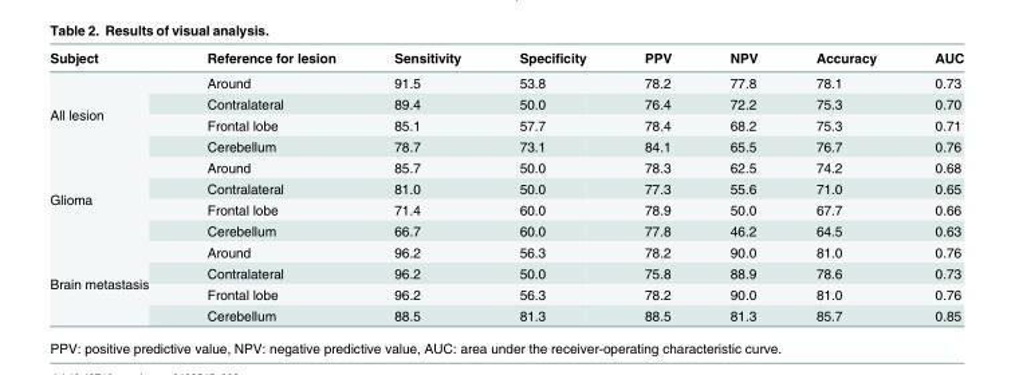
<table><thead><tr><td>Subject</td><td>Reference for lesion</td><td>Sensitivity</td><td>Specificity</td><td>PPV</td><td>NPV</td><td>Accuracy</td><td>AUC</td></tr></thead><tbody><tr><td rowspan="4">All lesion</td><td>Around</td><td>91.5</td><td>53.8</td><td>78.2</td><td>77.8</td><td>78.1</td><td>0.73</td></tr><tr><td>Contralateral</td><td>89.4</td><td>50.0</td><td>76.4</td><td>72.2</td><td>75.3</td><td>0.70</td></tr><tr><td>Frontal lobe</td><td>85.1</td><td>57.7</td><td>78.4</td><td>68.2</td><td>75.3</td><td>0.71</td></tr><tr><td>Cerebellum</td><td>78.7</td><td>73.1</td><td>84.1</td><td>65.5</td><td>76.7</td><td>0.76</td></tr><tr><td rowspan="4">Glioma</td><td>Around</td><td>85.7</td><td>50.0</td><td>78.3</td><td>62.5</td><td>74.2</td><td>0.68</td></tr><tr><td>Contralateral</td><td>81.0</td><td>50.0</td><td>77.3</td><td>55.6</td><td>71.0</td><td>0.65</td></tr><tr><td>Frontal lobe</td><td>71.4</td><td>60.0</td><td>78.9</td><td>50.0</td><td>67.7</td><td>0.66</td></tr><tr><td>Cerebellum</td><td>66.7</td><td>60.0</td><td>77.8</td><td>46.2</td><td>64.5</td><td>0.63</td></tr><tr><td rowspan="4">Brain metastasis</td><td>Around</td><td>96.2</td><td>56.3</td><td>78.2</td><td>90.0</td><td>81.0</td><td>0.76</td></tr><tr><td>Contralateral</td><td>96.2</td><td>50.0</td><td>75.8</td><td>88.9</td><td>78.6</td><td>0.73</td></tr><tr><td>Frontal lobe</td><td>96.2</td><td>56.3</td><td>78.2</td><td>90.0</td><td>81.0</td><td>0.76</td></tr><tr><td>Cerebellum</td><td>88.5</td><td>81.3</td><td>88.5</td><td>81.3</td><td>85.7</td><td>0.85</td></tr></tbody></table>